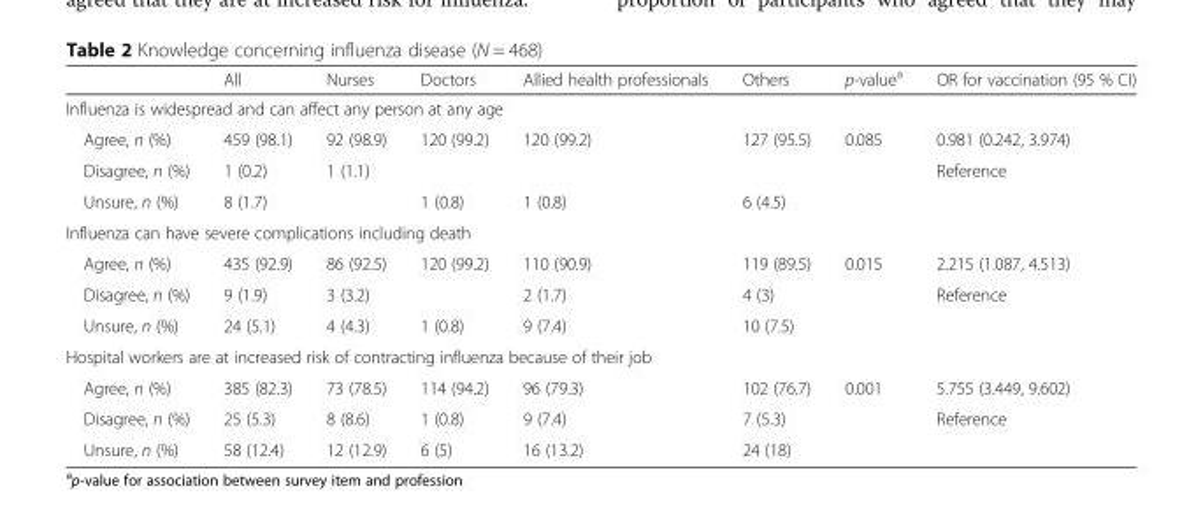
<table><thead><tr><td></td><td>All</td><td>Nurses</td><td>Doctors</td><td>Allied health professionals</td><td>Others</td><td>p-value<sup>a</sup></td><td>OR for vaccination (95 % CI)</td></tr></thead><tbody><tr><td colspan="8">Influenza is widespread and can affect any person at any age</td></tr><tr><td>Agree, n (%)</td><td>459 (98.1)</td><td>92 (98.9)</td><td>120 (99.2)</td><td>120 (99.2)</td><td>127 (95.5)</td><td rowspan="3">0.085</td><td>0.981 (0.242, 3.974)</td></tr><tr><td>Disagree, n (%)</td><td>1 (0.2)</td><td>1 (1.1)</td><td></td><td></td><td></td><td rowspan="2">Reference</td></tr><tr><td>Unsure, n (%)</td><td>8 (1.7)</td><td></td><td>1 (0.8)</td><td>1 (0.8)</td><td>6 (4.5)</td></tr><tr><td colspan="8">Influenza can have severe complications including death</td></tr><tr><td>Agree, n (%)</td><td>435 (92.9)</td><td>86 (92.5)</td><td>120 (99.2)</td><td>110 (90.9)</td><td>119 (89.5)</td><td rowspan="3">0.015</td><td>2.215 (1.087, 4.513)</td></tr><tr><td>Disagree, n (%)</td><td>9 (1.9)</td><td>3 (3.2)</td><td></td><td>2 (1.7)</td><td>4 (3)</td><td rowspan="2">Reference</td></tr><tr><td>Unsure, n (%)</td><td>24 (5.1)</td><td>4 (4.3)</td><td>1 (0.8)</td><td>9 (7.4)</td><td>10 (7.5)</td></tr><tr><td colspan="8">Hospital workers are at increased risk of contracting influenza because of their job</td></tr><tr><td>Agree, n (%)</td><td>385 (82.3)</td><td>73 (78.5)</td><td>114 (94.2)</td><td>96 (79.3)</td><td>102 (76.7)</td><td rowspan="3">0.001</td><td>5.755 (3.449, 9.602)</td></tr><tr><td>Disagree, n (%)</td><td>25 (5.3)</td><td>8 (8.6)</td><td>1 (0.8)</td><td>9 (7.4)</td><td>7 (5.3)</td><td rowspan="2">Reference</td></tr><tr><td>Unsure, n (%)</td><td>58 (12.4)</td><td>12 (12.9)</td><td>6 (5)</td><td>16 (13.2)</td><td>24 (18)</td></tr></tbody></table>